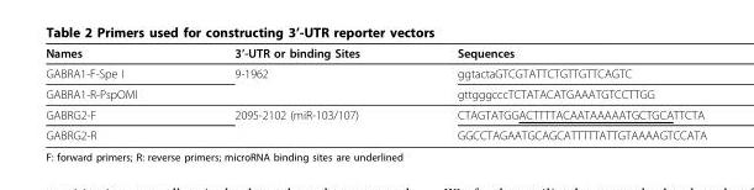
<table><thead><tr><td>Names</td><td>3’-UTR or binding Sites</td><td>Sequences</td></tr></thead><tbody><tr><td>GABRA1-F-Spe I</td><td>9-1962</td><td>ggtactaGTCGTATTCTGTTGTTCAGTC</td></tr><tr><td>GABRA1-R-PspOMI</td><td></td><td>gttgggcccTCTATACATGAAATGTCCTTGG</td></tr><tr><td>GABRG2-F</td><td>2095-2102 (miR-103/107)</td><td>CTAGTATGGACTTTTACAATAAAAATGCTGCATTCTA</td></tr><tr><td>GABRG2-R</td><td></td><td>GGCCTAGAATGCAGCATTTTTATTGTAAAAGTCCATA</td></tr></tbody></table>